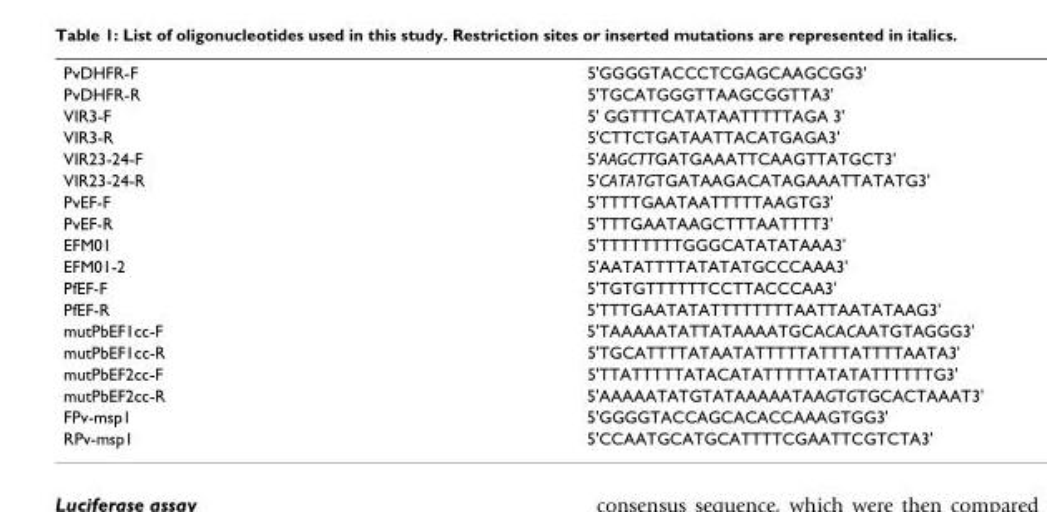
<table><tbody><tr><td>PvDHFR-F</td><td>5&#x27;GGGGTACCCTCGAGCAAGCGG3&#x27;</td></tr><tr><td>PvDHFR-R</td><td>5&#x27;TGCATGGGTTAAGCGGTTA3&#x27;</td></tr><tr><td>VIR3-F</td><td>5&#x27; GGTTTCATATAATTTTTAGA 3&#x27;</td></tr><tr><td>VIR3-R</td><td>5&#x27;CTTCTGATAATTACATGAGA3&#x27;</td></tr><tr><td>VIR23-24-F</td><td>5&#x27;AAGCTTGATGAAATTCAAGTTATGCT3&#x27;</td></tr><tr><td>VIR23-24-R</td><td>5&#x27;CATATGTGATAAGACATAGAAATTATATG3&#x27;</td></tr><tr><td>PvEF-F</td><td>5&#x27;TTTTGAATAATTTTTAAGTG3&#x27;</td></tr><tr><td>PvEF-R</td><td>5&#x27;TTTGAATAAGCTTTAATTTT3&#x27;</td></tr><tr><td>EFM01</td><td>5&#x27;TTTTTTTTGGGCATATATAAA3&#x27;</td></tr><tr><td>EFM01-2</td><td>5&#x27;AATATTTTATATATGCCCAAA3&#x27;</td></tr><tr><td>PfEF-F</td><td>5&#x27;TGTGTTTTTTCCTTACCCAA3&#x27;</td></tr><tr><td>PfEF-R</td><td>5&#x27;TTTGAATATATTTTTTTTAATTAATATAAG3&#x27;</td></tr><tr><td>mutPbEF1cc-F</td><td>5&#x27;TAAAAATATTATAAAATGCACACAATGTAGGG3&#x27;</td></tr><tr><td>mutPbEF1cc-R</td><td>5&#x27;TGCATTTTATAATATTTTTATTTATTTTAATA3&#x27;</td></tr><tr><td>mutPbEF2cc-F</td><td>5&#x27;TTATTTTTATACATATTTTTATATATTTTTTG3&#x27;</td></tr><tr><td>mutPbEF2cc-R</td><td>5&#x27;AAAAATATGTATAAAAATAAGTGTGCACTAAAT3&#x27;</td></tr><tr><td>FPv-msp1</td><td>5&#x27;GGGGTACCAGCACACCAAAGTGG3&#x27;</td></tr><tr><td>RPv-msp1</td><td>5&#x27;CCAATGCATGCATTTTCGAATTCGTCTA3&#x27;</td></tr></tbody></table>